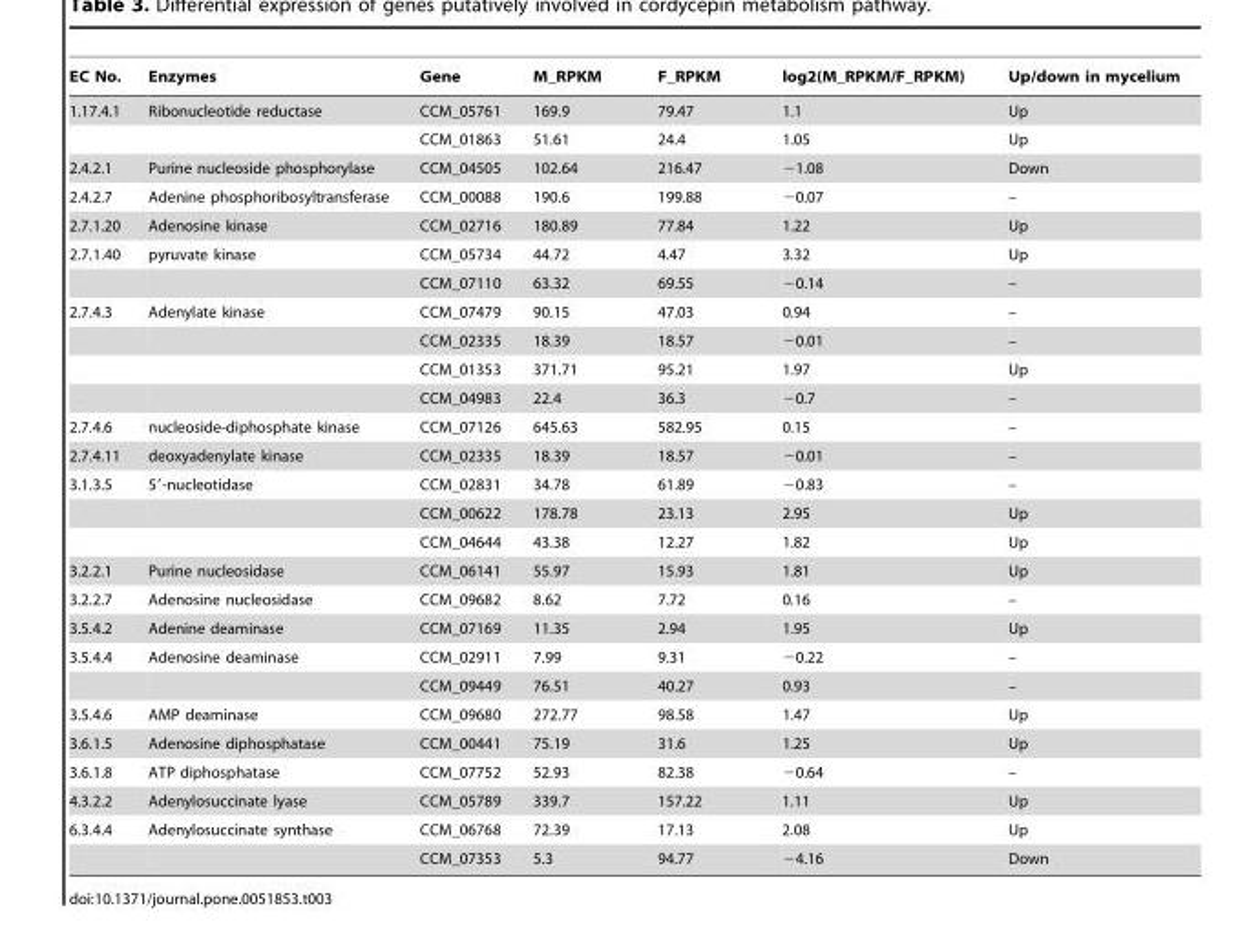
<table><thead><tr><td>EC No.</td><td>Enzymes</td><td>Gene</td><td>M_RPKM</td><td>F_RPKM</td><td>log2(M_RPKM/F_RPKM)</td><td>Up/down in mycelium</td></tr></thead><tbody><tr><td rowspan="2">1.17.4.1</td><td>Ribonucleotide reductase</td><td>CCM_05761</td><td>169.9</td><td>79.47</td><td>1.1</td><td>Up</td></tr><tr><td></td><td>CCM_01863</td><td>51.61</td><td>24.4</td><td>1.05</td><td>Up</td></tr><tr><td>2.4.2.1</td><td>Purine nucleoside phosphorylase</td><td>CCM_04505</td><td>102.64</td><td>216.47</td><td>−1.08</td><td>Down</td></tr><tr><td>2.4.2.7</td><td>Adenine phosphoribosyltransferase</td><td>CCM_00088</td><td>190.6</td><td>199.88</td><td>−0.07</td><td>–</td></tr><tr><td>2.7.1.20</td><td>Adenosine kinase</td><td>CCM_02716</td><td>180.89</td><td>77.84</td><td>1.22</td><td>Up</td></tr><tr><td rowspan="2">2.7.1.40</td><td>pyruvate kinase</td><td>CCM_05734</td><td>44.72</td><td>4.47</td><td>3.32</td><td>Up</td></tr><tr><td></td><td>CCM_07110</td><td>63.32</td><td>69.55</td><td>−0.14</td><td>–</td></tr><tr><td rowspan="4">2.7.4.3</td><td>Adenylate kinase</td><td>CCM_07479</td><td>90.15</td><td>47.03</td><td>0.94</td><td>–</td></tr><tr><td></td><td>CCM_02335</td><td>18.39</td><td>18.57</td><td>−0.01</td><td>–</td></tr><tr><td></td><td>CCM_01353</td><td>371.71</td><td>95.21</td><td>1.97</td><td>Up</td></tr><tr><td></td><td>CCM_04983</td><td>22.4</td><td>36.3</td><td>−0.7</td><td>–</td></tr><tr><td>2.7.4.6</td><td>nucleoside-diphosphate kinase</td><td>CCM_07126</td><td>645.63</td><td>582.95</td><td>0.15</td><td>–</td></tr><tr><td>2.7.4.11</td><td>deoxyadenylate kinase</td><td>CCM_02335</td><td>18.39</td><td>18.57</td><td>−0.01</td><td>–</td></tr><tr><td rowspan="3">3.1.3.5</td><td>5′-nucleotidase</td><td>CCM_02831</td><td>34.78</td><td>61.89</td><td>−0.83</td><td>–</td></tr><tr><td></td><td>CCM_00622</td><td>178.78</td><td>23.13</td><td>2.95</td><td>Up</td></tr><tr><td></td><td>CCM_04644</td><td>43.38</td><td>12.27</td><td>1.82</td><td>Up</td></tr><tr><td>3.2.2.1</td><td>Purine nucleosidase</td><td>CCM_06141</td><td>55.97</td><td>15.93</td><td>1.81</td><td>Up</td></tr><tr><td>3.2.2.7</td><td>Adenosine nucleosidase</td><td>CCM_09682</td><td>8.62</td><td>7.72</td><td>0.16</td><td>–</td></tr><tr><td>3.5.4.2</td><td>Adenine deaminase</td><td>CCM_07169</td><td>11.35</td><td>2.94</td><td>1.95</td><td>Up</td></tr><tr><td rowspan="2">3.5.4.4</td><td>Adenosine deaminase</td><td>CCM_02911</td><td>7.99</td><td>9.31</td><td>−0.22</td><td>–</td></tr><tr><td></td><td>CCM_09449</td><td>76.51</td><td>40.27</td><td>0.93</td><td>–</td></tr><tr><td>3.5.4.6</td><td>AMP deaminase</td><td>CCM_09680</td><td>272.77</td><td>98.58</td><td>1.47</td><td>Up</td></tr><tr><td>3.6.1.5</td><td>Adenosine diphosphatase</td><td>CCM_00441</td><td>75.19</td><td>31.6</td><td>1.25</td><td>Up</td></tr><tr><td>3.6.1.8</td><td>ATP diphosphatase</td><td>CCM_07752</td><td>52.93</td><td>82.38</td><td>−0.64</td><td>–</td></tr><tr><td>4.3.2.2</td><td>Adenylosuccinate lyase</td><td>CCM_05789</td><td>339.7</td><td>157.22</td><td>1.11</td><td>Up</td></tr><tr><td rowspan="2">6.3.4.4</td><td>Adenylosuccinate synthase</td><td>CCM_06768</td><td>72.39</td><td>17.13</td><td>2.08</td><td>Up</td></tr><tr><td></td><td>CCM_07353</td><td>5.3</td><td>94.77</td><td>−4.16</td><td>Down</td></tr></tbody></table>